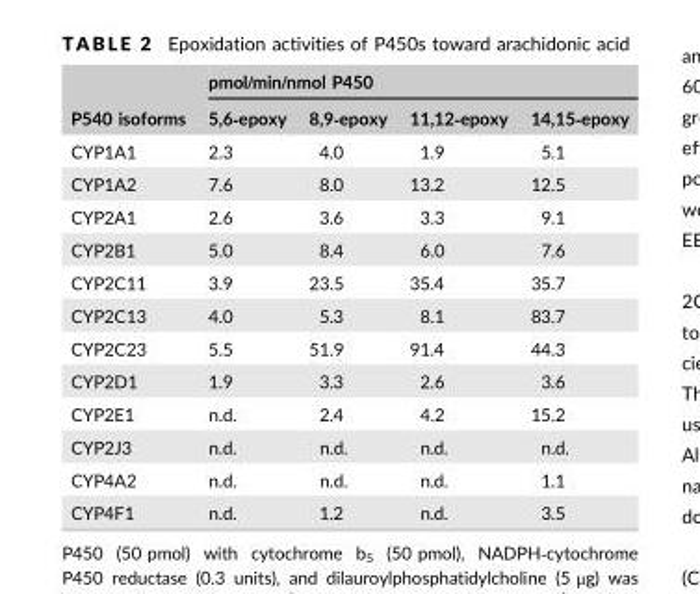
<table><thead><tr><td rowspan="2">P540 isoforms</td><td colspan="4">pmol/min/nmol P450</td></tr><tr><td>5,6‐epoxy</td><td>8,9‐epoxy</td><td>11,12‐epoxy</td><td>14,15‐epoxy</td></tr></thead><tbody><tr><td>CYP1A1</td><td>2.3</td><td>4.0</td><td>1.9</td><td>5.1</td></tr><tr><td>CYP1A2</td><td>7.6</td><td>8.0</td><td>13.2</td><td>12.5</td></tr><tr><td>CYP2A1</td><td>2.6</td><td>3.6</td><td>3.3</td><td>9.1</td></tr><tr><td>CYP2B1</td><td>5.0</td><td>8.4</td><td>6.0</td><td>7.6</td></tr><tr><td>CYP2C11</td><td>3.9</td><td>23.5</td><td>35.4</td><td>35.7</td></tr><tr><td>CYP2C13</td><td>4.0</td><td>5.3</td><td>8.1</td><td>83.7</td></tr><tr><td>CYP2C23</td><td>5.5</td><td>51.9</td><td>91.4</td><td>44.3</td></tr><tr><td>CYP2D1</td><td>1.9</td><td>3.3</td><td>2.6</td><td>3.6</td></tr><tr><td>CYP2E1</td><td>n.d.</td><td>2.4</td><td>4.2</td><td>15.2</td></tr><tr><td>CYP2J3</td><td>n.d.</td><td>n.d.</td><td>n.d.</td><td>n.d.</td></tr><tr><td>CYP4A2</td><td>n.d.</td><td>n.d.</td><td>n.d.</td><td>1.1</td></tr><tr><td>CYP4F1</td><td>n.d.</td><td>1.2</td><td>n.d.</td><td>3.5</td></tr></tbody></table>